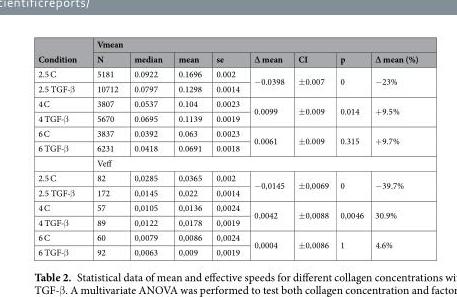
<table><thead><tr><td rowspan="2">Condition</td><td colspan="8">Vmean</td></tr><tr><td>N</td><td>median</td><td>mean</td><td>se</td><td>∆ mean</td><td>CI</td><td>p</td><td>∆ mean (%)</td></tr></thead><tbody><tr><td>2.5 C</td><td>5181</td><td>0.0922</td><td>0.1696</td><td>0.002</td><td rowspan="2">−0.0398</td><td rowspan="2">±0.007</td><td rowspan="2">0</td><td rowspan="2">−23%</td></tr><tr><td>2.5 TGF-β</td><td>10712</td><td>0.0797</td><td>0.1298</td><td>0.0014</td></tr><tr><td>4 C</td><td>3807</td><td>0.0537</td><td>0.104</td><td>0.0023</td><td rowspan="2">0.0099</td><td rowspan="2">±0.009</td><td rowspan="2">0.014</td><td rowspan="2">+9.5%</td></tr><tr><td>4 TGF-β</td><td>5670</td><td>0.0695</td><td>0.1139</td><td>0.0019</td></tr><tr><td>6 C</td><td>3837</td><td>0.0392</td><td>0.063</td><td>0.0023</td><td rowspan="2">0.0061</td><td rowspan="2">±0.009</td><td rowspan="2">0.315</td><td rowspan="2">+9.7%</td></tr><tr><td rowspan="2">6 TGF-β</td><td>6231</td><td>0.0418</td><td>0.0691</td><td>0.0018</td></tr><tr><td colspan="8">Veff</td></tr><tr><td>2.5 C</td><td>82</td><td>0,0285</td><td>0,0365</td><td>0,002</td><td rowspan="2">−0,0145</td><td rowspan="2">±0,0069</td><td rowspan="2">0</td><td rowspan="2">−39.7%</td></tr><tr><td>2.5 TGF-β</td><td>172</td><td>0,0145</td><td>0,022</td><td>0,0014</td></tr><tr><td>4 C</td><td>57</td><td>0,0105</td><td>0,0136</td><td>0,0024</td><td rowspan="2">0,0042</td><td rowspan="2">±0,0088</td><td rowspan="2">0,0046</td><td rowspan="2">30.9%</td></tr><tr><td>4 TGF-β</td><td>89</td><td>0,0122</td><td>0,0178</td><td>0,0019</td></tr><tr><td>6 C</td><td>60</td><td>0,0079</td><td>0,0086</td><td>0,0024</td><td rowspan="2">0,0004</td><td rowspan="2">±0,0086</td><td rowspan="2">1</td><td rowspan="2">4.6%</td></tr><tr><td>6 TGF-β</td><td>92</td><td>0,0063</td><td>0,009</td><td>0,0019</td></tr></tbody></table>